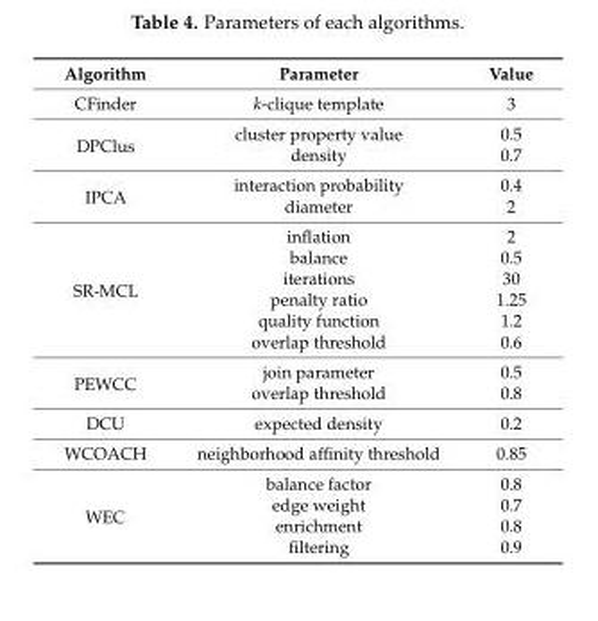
<table><thead><tr><td>Algorithm</td><td>Parameter</td><td>Value</td></tr></thead><tbody><tr><td>CFinder</td><td>k-clique template</td><td>3</td></tr><tr><td rowspan="2">DPClus</td><td>cluster property value</td><td>0.5</td></tr><tr><td>density</td><td>0.7</td></tr><tr><td rowspan="2">IPCA</td><td>interaction probability</td><td>0.4</td></tr><tr><td>diameter</td><td>2</td></tr><tr><td rowspan="6">SR-MCL</td><td>inflation</td><td>2</td></tr><tr><td>balance</td><td>0.5</td></tr><tr><td>iterations</td><td>30</td></tr><tr><td>penalty ratio</td><td>1.25</td></tr><tr><td>quality function</td><td>1.2</td></tr><tr><td>overlap threshold</td><td>0.6</td></tr><tr><td rowspan="2">PEWCC</td><td>join parameter</td><td>0.5</td></tr><tr><td>overlap threshold</td><td>0.8</td></tr><tr><td>DCU</td><td>expected density</td><td>0.2</td></tr><tr><td>WCOACH</td><td>neighborhood affinity threshold</td><td>0.85</td></tr><tr><td rowspan="4">WEC</td><td>balance factor</td><td>0.8</td></tr><tr><td>edge weight</td><td>0.7</td></tr><tr><td>enrichment</td><td>0.8</td></tr><tr><td>filtering</td><td>0.9</td></tr></tbody></table>